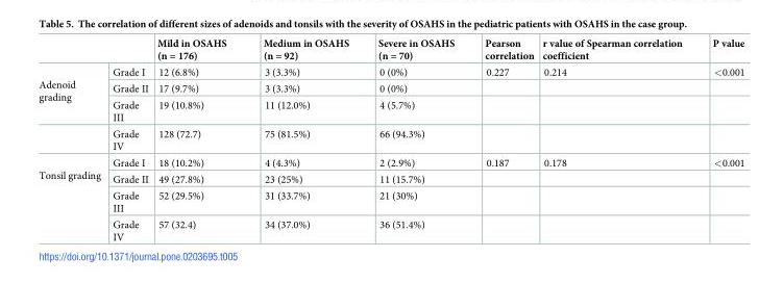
<table><thead><tr><td></td><td></td><td>Mild in OSAHS (n = 176)</td><td>Medium in OSAHS (n = 92)</td><td>Severe in OSAHS (n = 70)</td><td>Pearson correlation</td><td>r value of Spearman correlation coefficient</td><td>P value</td></tr></thead><tbody><tr><td rowspan="4">Adenoid grading</td><td>Grade I</td><td>12 (6.8%)</td><td>3 (3.3%)</td><td>0 (0%)</td><td>0.227</td><td>0.214</td><td>&lt;0.001</td></tr><tr><td>Grade II</td><td>17 (9.7%)</td><td>3 (3.3%)</td><td>0 (0%)</td><td></td><td></td><td></td></tr><tr><td>Grade III</td><td>19 (10.8%)</td><td>11 (12.0%)</td><td>4 (5.7%)</td><td></td><td></td><td></td></tr><tr><td>Grade IV</td><td>128 (72.7)</td><td>75 (81.5%)</td><td>66 (94.3%)</td><td></td><td></td><td></td></tr><tr><td rowspan="4">Tonsil grading</td><td>Grade I</td><td>18 (10.2%)</td><td>4 (4.3%)</td><td>2 (2.9%)</td><td>0.187</td><td>0.178</td><td>&lt;0.001</td></tr><tr><td>Grade II</td><td>49 (27.8%)</td><td>23 (25%)</td><td>11 (15.7%)</td><td></td><td></td><td></td></tr><tr><td>Grade III</td><td>52 (29.5%)</td><td>31 (33.7%)</td><td>21 (30%)</td><td></td><td></td><td></td></tr><tr><td>Grade IV</td><td>57 (32.4)</td><td>34 (37.0%)</td><td>36 (51.4%)</td><td></td><td></td><td></td></tr></tbody></table>